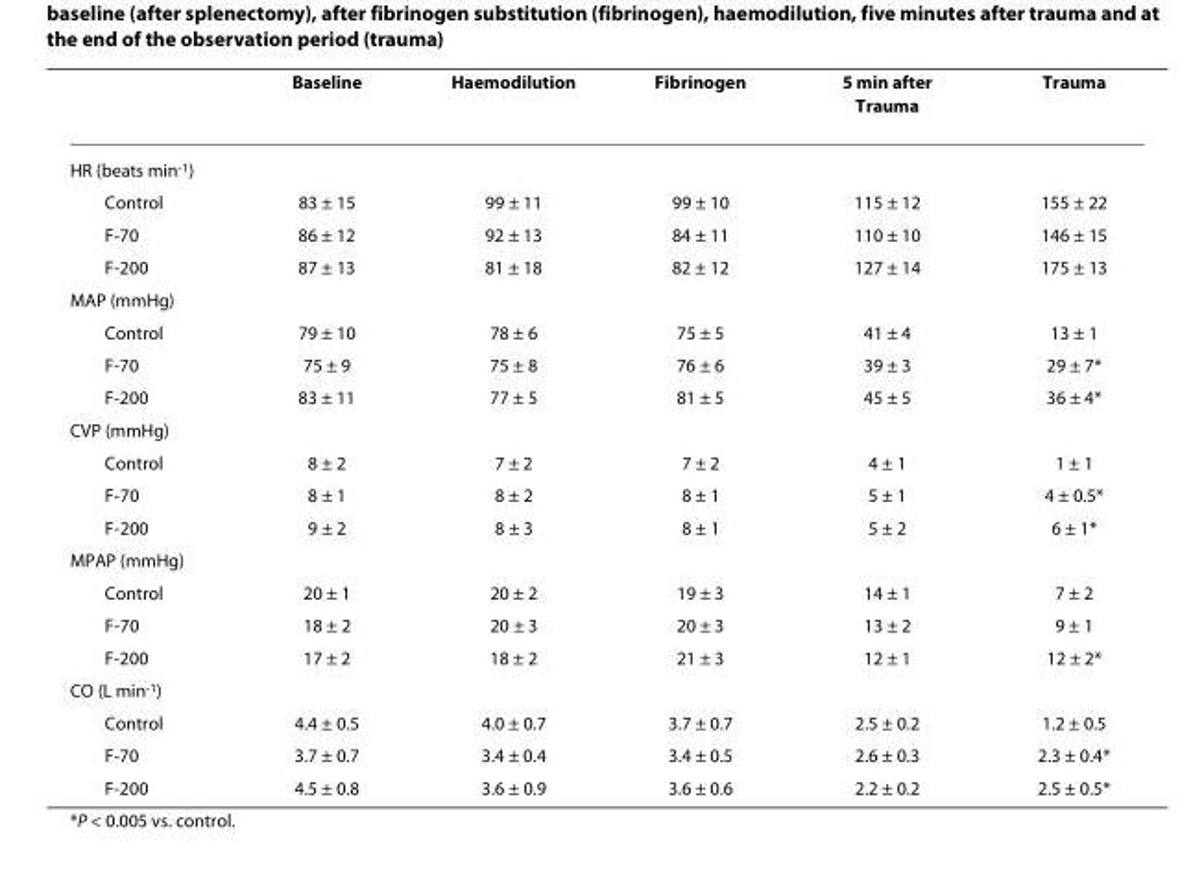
<table><thead><tr><td></td><td>Baseline</td><td>Haemodilution</td><td>Fibrinogen</td><td>5 min after Trauma</td><td>Trauma</td></tr></thead><tbody><tr><td colspan="6">HR (beats min<sup>-1</sup>)</td></tr><tr><td>Control</td><td>83 ± 15</td><td>99 ± 11</td><td>99 ± 10</td><td>115 ± 12</td><td>155 ± 22</td></tr><tr><td>F-70</td><td>86 ± 12</td><td>92 ± 13</td><td>84 ± 11</td><td>110 ± 10</td><td>146 ± 15</td></tr><tr><td>F-200</td><td>87 ± 13</td><td>81 ± 18</td><td>82 ± 12</td><td>127 ± 14</td><td>175 ± 13</td></tr><tr><td colspan="6">MAP (mmHg)</td></tr><tr><td>Control</td><td>79 ± 10</td><td>78 ± 6</td><td>75 ± 5</td><td>41 ± 4</td><td>13 ± 1</td></tr><tr><td>F-70</td><td>75 ± 9</td><td>75 ± 8</td><td>76 ± 6</td><td>39 ± 3</td><td>29 ± 7*</td></tr><tr><td>F-200</td><td>83 ± 11</td><td>77 ± 5</td><td>81 ± 5</td><td>45 ± 5</td><td>36 ± 4*</td></tr><tr><td colspan="6">CVP (mmHg)</td></tr><tr><td>Control</td><td>8 ± 2</td><td>7 ± 2</td><td>7 ± 2</td><td>4 ± 1</td><td>1 ± 1</td></tr><tr><td>F-70</td><td>8 ± 1</td><td>8 ± 2</td><td>8 ± 1</td><td>5 ± 1</td><td>4 ± 0.5*</td></tr><tr><td>F-200</td><td>9 ± 2</td><td>8 ± 3</td><td>8 ± 1</td><td>5 ± 2</td><td>6 ± 1*</td></tr><tr><td colspan="6">MPAP (mmHg)</td></tr><tr><td>Control</td><td>20 ± 1</td><td>20 ± 2</td><td>19 ± 3</td><td>14 ± 1</td><td>7 ± 2</td></tr><tr><td>F-70</td><td>18 ± 2</td><td>20 ± 3</td><td>20 ± 3</td><td>13 ± 2</td><td>9 ± 1</td></tr><tr><td>F-200</td><td>17 ± 2</td><td>18 ± 2</td><td>21 ± 3</td><td>12 ± 1</td><td>12 ± 2*</td></tr><tr><td colspan="6">CO (L min<sup>-1</sup>)</td></tr><tr><td>Control</td><td>4.4 ± 0.5</td><td>4.0 ± 0.7</td><td>3.7 ± 0.7</td><td>2.5 ± 0.2</td><td>1.2 ± 0.5</td></tr><tr><td>F-70</td><td>3.7 ± 0.7</td><td>3.4 ± 0.4</td><td>3.4 ± 0.5</td><td>2.6 ± 0.3</td><td>2.3 ± 0.4*</td></tr><tr><td>F-200</td><td>4.5 ± 0.8</td><td>3.6 ± 0.9</td><td>3.6 ± 0.6</td><td>2.2 ± 0.2</td><td>2.5 ± 0.5*</td></tr></tbody></table>